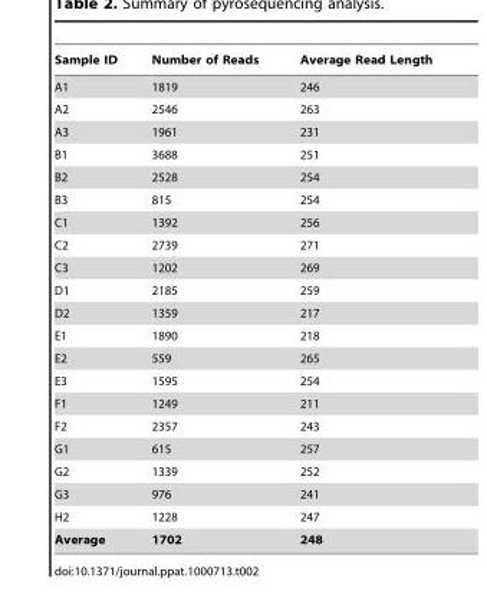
<table><thead><tr><td>Sample ID</td><td>Number of Reads</td><td>Average Read Length</td></tr></thead><tbody><tr><td>A1</td><td>1819</td><td>246</td></tr><tr><td>A2</td><td>2546</td><td>263</td></tr><tr><td>A3</td><td>1961</td><td>231</td></tr><tr><td>B1</td><td>3688</td><td>251</td></tr><tr><td>B2</td><td>2528</td><td>254</td></tr><tr><td>B3</td><td>815</td><td>254</td></tr><tr><td>C1</td><td>1392</td><td>256</td></tr><tr><td>C2</td><td>2739</td><td>271</td></tr><tr><td>C3</td><td>1202</td><td>269</td></tr><tr><td>D1</td><td>2185</td><td>259</td></tr><tr><td>D2</td><td>1359</td><td>217</td></tr><tr><td>E1</td><td>1890</td><td>218</td></tr><tr><td>E2</td><td>559</td><td>265</td></tr><tr><td>E3</td><td>1595</td><td>254</td></tr><tr><td>F1</td><td>1249</td><td>211</td></tr><tr><td>F2</td><td>2357</td><td>243</td></tr><tr><td>G1</td><td>615</td><td>257</td></tr><tr><td>G2</td><td>1339</td><td>252</td></tr><tr><td>G3</td><td>976</td><td>241</td></tr><tr><td>H2</td><td>1228</td><td>247</td></tr><tr><td>Average</td><td>1702</td><td>248</td></tr></tbody></table>